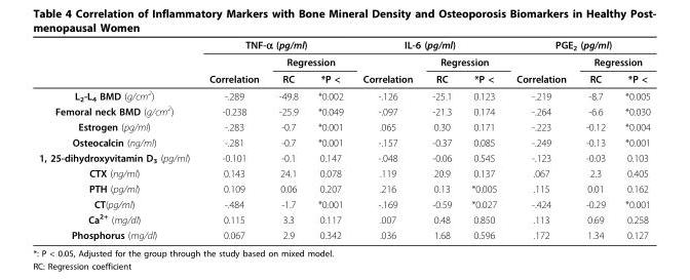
<table><thead><tr><td rowspan="3"></td><td colspan="3">TNF-α (pg/ml)</td><td colspan="3">IL-6 (pg/ml)</td><td colspan="3">PGE<sub>2</sub> (pg/ml)</td></tr><tr><td rowspan="2">Correlation</td><td colspan="2">Regression</td><td rowspan="2">Correlation</td><td colspan="2">Regression</td><td rowspan="2">Correlation</td><td colspan="2">Regression</td></tr><tr><td>RC</td><td>*P &lt;</td><td>RC</td><td>*P &lt;</td><td>RC</td><td>*P &lt;</td></tr></thead><tbody><tr><td>L<sub>2</sub>-L<sub>4</sub> BMD (g/cm<sup>2</sup>)</td><td>-.289</td><td>-49.8</td><td>*0.002</td><td>-.126</td><td>-25.1</td><td>0.123</td><td>-.219</td><td>-8.7</td><td>*0.005</td></tr><tr><td>Femoral neck BMD (g/cm<sup>2</sup>)</td><td>-0.238</td><td>-25.9</td><td>*0.049</td><td>-.097</td><td>-21.3</td><td>0.174</td><td>-.264</td><td>-6.6</td><td>*0.030</td></tr><tr><td>Estrogen (pg/ml)</td><td>-.283</td><td>-0.7</td><td>*0.001</td><td>.065</td><td>0.30</td><td>0.171</td><td>-.223</td><td>-0.12</td><td>*0.004</td></tr><tr><td>Osteocalcin (ng/ml)</td><td>-.281</td><td>-0.7</td><td>*0.001</td><td>-.157</td><td>-0.37</td><td>0.085</td><td>-.249</td><td>-0.13</td><td>*0.001</td></tr><tr><td>1, 25-dihydroxyvitamin D<sub>3</sub> (pg/ml)</td><td>-0.101</td><td>-0.1</td><td>0.147</td><td>-.048</td><td>-0.06</td><td>0.545</td><td>-.123</td><td>-0.03</td><td>0.103</td></tr><tr><td>CTX (ng/ml)</td><td>0.143</td><td>24.1</td><td>0.078</td><td>.119</td><td>20.9</td><td>0.137</td><td>.067</td><td>2.3</td><td>0.405</td></tr><tr><td>PTH (pg/ml)</td><td>0.109</td><td>0.06</td><td>0.207</td><td>.216</td><td>0.13</td><td>*0.005</td><td>.115</td><td>0.01</td><td>0.162</td></tr><tr><td>CT(pg/ml)</td><td>-.484</td><td>-1.7</td><td>*0.001</td><td>-.169</td><td>-0.59</td><td>*0.027</td><td>-.424</td><td>-0.29</td><td>*0.001</td></tr><tr><td>Ca<sup>2+</sup> (mg/dl)</td><td>0.115</td><td>3.3</td><td>0.117</td><td>.007</td><td>0.48</td><td>0.850</td><td>.113</td><td>0.69</td><td>0.258</td></tr><tr><td>Phosphorus (mg/dl)</td><td>0.067</td><td>2.9</td><td>0.342</td><td>.036</td><td>1.68</td><td>0.596</td><td>.172</td><td>1.34</td><td>0.127</td></tr></tbody></table>